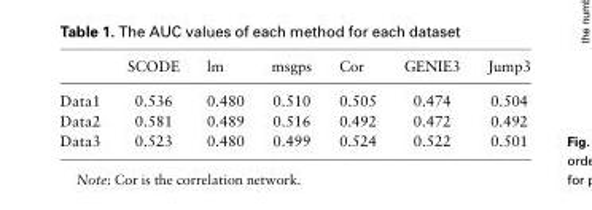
<table><thead><tr><td></td><td>SCODE</td><td>lm</td><td>msgps</td><td>Cor</td><td>GENIE3</td><td>Jump3</td></tr></thead><tbody><tr><td>Data1</td><td>0.536</td><td>0.480</td><td>0.510</td><td>0.505</td><td>0.474</td><td>0.504</td></tr><tr><td>Data2</td><td>0.581</td><td>0.489</td><td>0.516</td><td>0.492</td><td>0.472</td><td>0.492</td></tr><tr><td>Data3</td><td>0.523</td><td>0.480</td><td>0.499</td><td>0.524</td><td>0.522</td><td>0.501</td></tr></tbody></table>